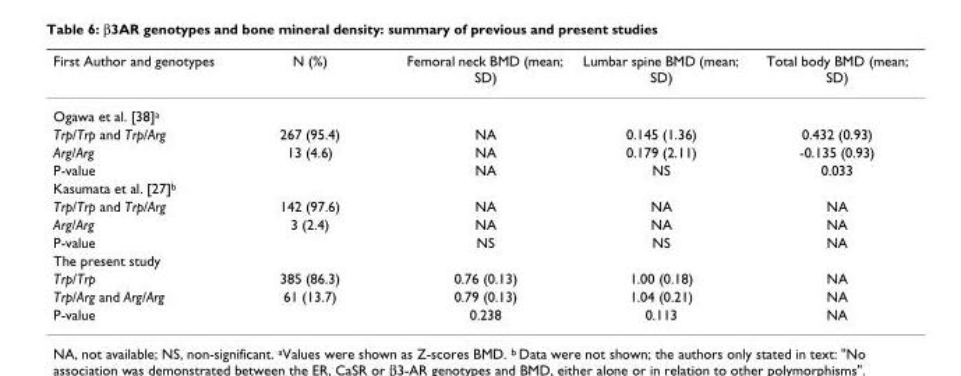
<table><thead><tr><td>First Author and genotypes</td><td>N (%)</td><td>Femoral neck BMD (mean; SD)</td><td>Lumbar spine BMD (mean; SD)</td><td>Total body BMD (mean; SD)</td></tr></thead><tbody><tr><td colspan="5">Ogawa et al. [38]<sup>a</sup></td></tr><tr><td>Trp/Trp and Trp/Arg</td><td>267 (95.4)</td><td>NA</td><td>0.145 (1.36)</td><td>0.432 (0.93)</td></tr><tr><td>Arg/Arg</td><td>13 (4.6)</td><td>NA</td><td>0.179 (2.11)</td><td>-0.135 (0.93)</td></tr><tr><td>P-value</td><td></td><td>NA</td><td>NS</td><td>0.033</td></tr><tr><td colspan="5">Kasumata et al. [27]<sup>b</sup></td></tr><tr><td>Trp/Trp and Trp/Arg</td><td>142 (97.6)</td><td>NA</td><td>NA</td><td>NA</td></tr><tr><td>Arg/Arg</td><td>3 (2.4)</td><td>NA</td><td>NA</td><td>NA</td></tr><tr><td>P-value</td><td></td><td>NS</td><td>NS</td><td>NA</td></tr><tr><td colspan="5">The present study</td></tr><tr><td>Trp/Trp</td><td>385 (86.3)</td><td>0.76 (0.13)</td><td>1.00 (0.18)</td><td>NA</td></tr><tr><td>Trp/Arg and Arg/Arg</td><td>61 (13.7)</td><td>0.79 (0.13)</td><td>1.04 (0.21)</td><td>NA</td></tr><tr><td>P-value</td><td></td><td>0.238</td><td>0.113</td><td>NA</td></tr></tbody></table>